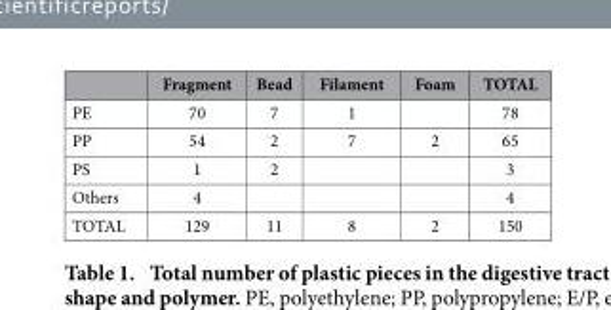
<table><thead><tr><td></td><td>Fragment</td><td>Bead</td><td>Filament</td><td>Foam</td><td>TOTAL</td></tr></thead><tbody><tr><td>PE</td><td>70</td><td>7</td><td>1</td><td></td><td>78</td></tr><tr><td>PP</td><td>54</td><td>2</td><td>7</td><td>2</td><td>65</td></tr><tr><td>PS</td><td>1</td><td>2</td><td></td><td></td><td>3</td></tr><tr><td>Others</td><td>4</td><td></td><td></td><td></td><td>4</td></tr><tr><td>TOTAL</td><td>129</td><td>11</td><td>8</td><td>2</td><td>150</td></tr></tbody></table>